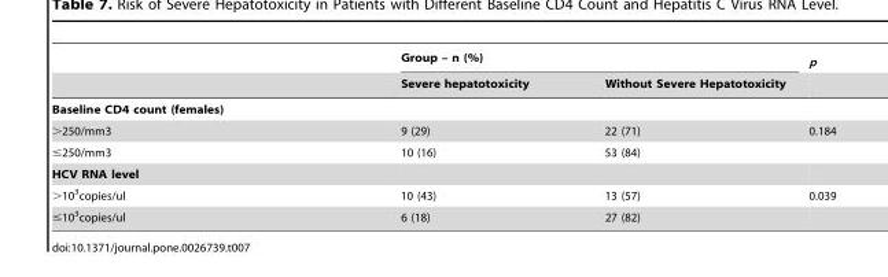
<table><thead><tr><td rowspan="2"></td><td colspan="2">Group – n (%)</td><td rowspan="2">p</td></tr><tr><td>Severe hepatotoxicity</td><td>Without Severe Hepatotoxicity</td></tr></thead><tbody><tr><td colspan="4">Baseline CD4 count (females)</td></tr><tr><td>&gt;250/mm3</td><td>9 (29)</td><td>22 (71)</td><td>0.184</td></tr><tr><td>≤250/mm3</td><td>10 (16)</td><td>53 (84)</td><td></td></tr><tr><td colspan="4">HCV RNA level</td></tr><tr><td>&gt;10<sup>3</sup>copies/ul</td><td>10 (43)</td><td>13 (57)</td><td>0.039</td></tr><tr><td>≤10<sup>3</sup>copies/ul</td><td>6 (18)</td><td>27 (82)</td><td></td></tr></tbody></table>